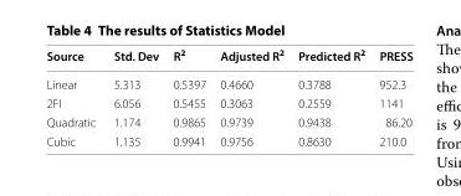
<table><thead><tr><td>Source</td><td>Std. Dev</td><td>R<sup>2</sup></td><td>Adjusted R<sup>2</sup></td><td>Predicted R<sup>2</sup></td><td>PRESS</td></tr></thead><tbody><tr><td>Linear</td><td>5.313</td><td>0.5397</td><td>0.4660</td><td>0.3788</td><td>952.3</td></tr><tr><td>2FI</td><td>6.056</td><td>0.5455</td><td>0.3063</td><td>0.2559</td><td>1141</td></tr><tr><td>Quadratic</td><td>1.174</td><td>0.9865</td><td>0.9739</td><td>0.9438</td><td>86.20</td></tr><tr><td>Cubic</td><td>1.135</td><td>0.9941</td><td>0.9756</td><td>0.8630</td><td>210.0</td></tr></tbody></table>